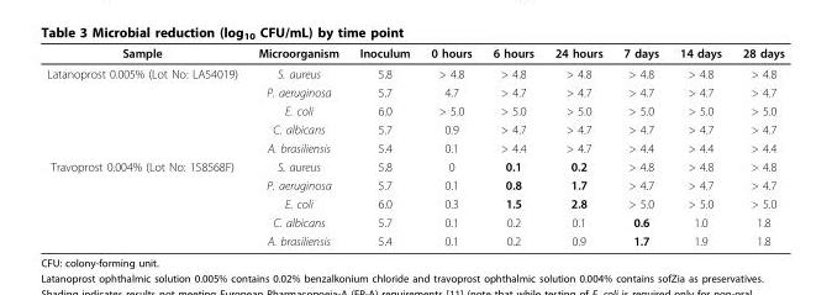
<table><thead><tr><td>Sample</td><td>Microorganism</td><td>Inoculum</td><td>0 hours</td><td>6 hours</td><td>24 hours</td><td>7 days</td><td>14 days</td><td>28 days</td></tr></thead><tbody><tr><td rowspan="5">Latanoprost 0.005% (Lot No: LA54019)</td><td>S. aureus</td><td>5.8</td><td>&gt; 4.8</td><td>&gt; 4.8</td><td>&gt; 4.8</td><td>&gt; 4.8</td><td>&gt; 4.8</td><td>&gt; 4.8</td></tr><tr><td>P. aeruginosa</td><td>5.7</td><td>4.7</td><td>&gt; 4.7</td><td>&gt; 4.7</td><td>&gt; 4.7</td><td>&gt; 4.7</td><td>&gt; 4.7</td></tr><tr><td>E. coli</td><td>6.0</td><td>&gt; 5.0</td><td>&gt; 5.0</td><td>&gt; 5.0</td><td>&gt; 5.0</td><td>&gt; 5.0</td><td>&gt; 5.0</td></tr><tr><td>C. albicans</td><td>5.7</td><td>0.9</td><td>&gt; 4.7</td><td>&gt; 4.7</td><td>&gt; 4.7</td><td>&gt; 4.7</td><td>&gt; 4.7</td></tr><tr><td>A. brasiliensis</td><td>5.4</td><td>0.1</td><td>&gt; 4.4</td><td>&gt; 4.7</td><td>&gt; 4.4</td><td>&gt; 4.4</td><td>&gt; 4.4</td></tr><tr><td rowspan="5">Travoprost 0.004% (Lot No: 158568F)</td><td>S. aureus</td><td>5.8</td><td>0</td><td>0.1</td><td>0.2</td><td>&gt; 4.8</td><td>&gt; 4.8</td><td>&gt; 4.8</td></tr><tr><td>P. aeruginosa</td><td>5.7</td><td>0.1</td><td>0.8</td><td>1.7</td><td>&gt; 4.7</td><td>&gt; 4.7</td><td>&gt; 4.7</td></tr><tr><td>E. coli</td><td>6.0</td><td>0.3</td><td>1.5</td><td>2.8</td><td>&gt; 5.0</td><td>&gt; 5.0</td><td>&gt; 5.0</td></tr><tr><td>C. albicans</td><td>5.7</td><td>0.1</td><td>0.2</td><td>0.1</td><td>0.6</td><td>1.0</td><td>1.8</td></tr><tr><td>A. brasiliensis</td><td>5.4</td><td>0.1</td><td>0.2</td><td>0.9</td><td>1.7</td><td>1.9</td><td>1.8</td></tr></tbody></table>